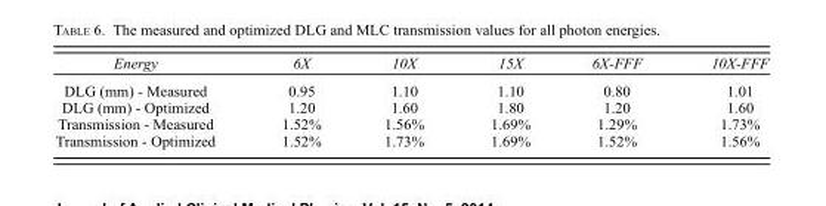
<table><thead><tr><td>Energy</td><td>6X</td><td>10X</td><td>15X</td><td>6X-FFF</td><td>10X-FFF</td></tr></thead><tbody><tr><td>DLG (mm) - Measured</td><td>0.95</td><td>1.10</td><td>1.10</td><td>0.80</td><td>1.01</td></tr><tr><td>DLG (mm) - Optimized</td><td>1.20</td><td>1.60</td><td>1.80</td><td>1.20</td><td>1.60</td></tr><tr><td>Transmission - Measured</td><td>1.52%</td><td>1.56%</td><td>1.69%</td><td>1.29%</td><td>1.73%</td></tr><tr><td>Transmission - Optimized</td><td>1.52%</td><td>1.73%</td><td>1.69%</td><td>1.52%</td><td>1.56%</td></tr></tbody></table>